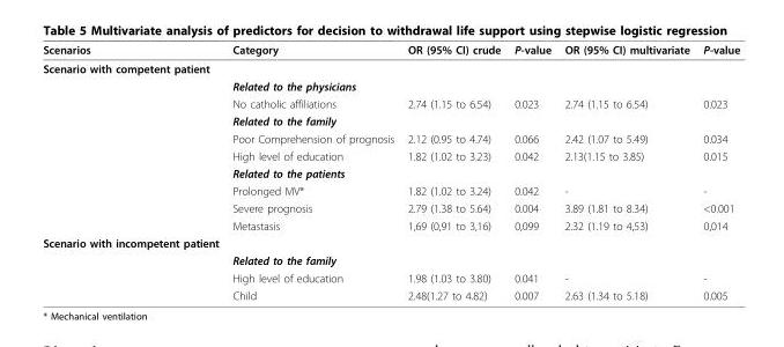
<table><thead><tr><td>Scenarios</td><td>Category</td><td>OR (95% CI) crude</td><td>P-value</td><td>OR (95% CI) multivariate</td><td>P-value</td></tr></thead><tbody><tr><td colspan="6">Scenario with competent patient</td></tr><tr><td></td><td>Related to the physicians</td><td></td><td></td><td></td><td></td></tr><tr><td></td><td>No catholic affiliations</td><td>2.74 (1.15 to 6.54)</td><td>0.023</td><td>2.74 (1.15 to 6.54)</td><td>0.023</td></tr><tr><td></td><td>Related to the family</td><td></td><td></td><td></td><td></td></tr><tr><td></td><td>Poor Comprehension of prognosis</td><td>2.12 (0.95 to 4.74)</td><td>0.066</td><td>2.42 (1.07 to 5.49)</td><td>0.034</td></tr><tr><td></td><td>High level of education</td><td>1.82 (1.02 to 3.23)</td><td>0.042</td><td>2.13(1.15 to 3.85)</td><td>0.015</td></tr><tr><td></td><td>Related to the patients</td><td></td><td></td><td></td><td></td></tr><tr><td></td><td>Prolonged MV*</td><td>1.82 (1.02 to 3.24)</td><td>0.042</td><td>-</td><td>-</td></tr><tr><td></td><td>Severe prognosis</td><td>2.79 (1.38 to 5.64)</td><td>0.004</td><td>3.89 (1.81 to 8.34)</td><td>&lt;0.001</td></tr><tr><td></td><td>Metastasis</td><td>1,69 (0,91 to 3,16)</td><td>0,099</td><td>2.32 (1.19 to 4,53)</td><td>0,014</td></tr><tr><td colspan="6">Scenario with incompetent patient</td></tr><tr><td></td><td>Related to the family</td><td></td><td></td><td></td><td></td></tr><tr><td></td><td>High level of education</td><td>1.98 (1.03 to 3.80)</td><td>0.041</td><td>-</td><td>-</td></tr><tr><td></td><td>Child</td><td>2.48(1.27 to 4.82)</td><td>0.007</td><td>2.63 (1.34 to 5.18)</td><td>0.005</td></tr></tbody></table>